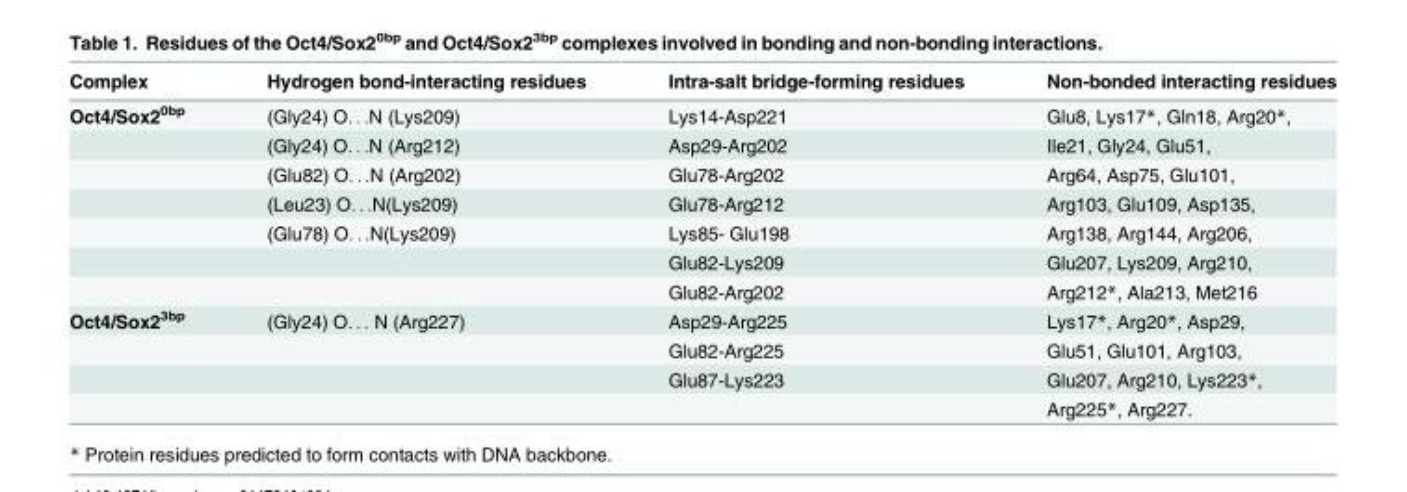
<table><thead><tr><td>Complex</td><td>Hydrogen bond-interacting residues</td><td>Intra-salt bridge-forming residues</td><td>Non-bonded interacting residues</td></tr></thead><tbody><tr><td rowspan="7">Oct4/Sox2<sup>0bp</sup></td><td>(Gly24) O. . .N (Lys209)</td><td>Lys14-Asp221</td><td>Glu8, Lys17*, Gln18, Arg20*,</td></tr><tr><td>(Gly24) O. . .N (Arg212)</td><td>Asp29-Arg202</td><td>Ile21, Gly24, Glu51,</td></tr><tr><td>(Glu82) O. . .N (Arg202)</td><td>Glu78-Arg202</td><td>Arg64, Asp75, Glu101,</td></tr><tr><td>(Leu23) O. . .N(Lys209)</td><td>Glu78-Arg212</td><td>Arg103, Glu109, Asp135,</td></tr><tr><td>(Glu78) O. . .N(Lys209)</td><td>Lys85- Glu198</td><td>Arg138, Arg144, Arg206,</td></tr><tr><td></td><td>Glu82-Lys209</td><td>Glu207, Lys209, Arg210,</td></tr><tr><td></td><td>Glu82-Arg202</td><td>Arg212*, Ala213, Met216</td></tr><tr><td rowspan="4">Oct4/Sox2<sup>3bp</sup></td><td>(Gly24) O. . . N (Arg227)</td><td>Asp29-Arg225</td><td>Lys17*, Arg20*, Asp29,</td></tr><tr><td></td><td>Glu82-Arg225</td><td>Glu51, Glu101, Arg103,</td></tr><tr><td></td><td>Glu87-Lys223</td><td>Glu207, Arg210, Lys223*,</td></tr><tr><td></td><td></td><td>Arg225*, Arg227.</td></tr></tbody></table>